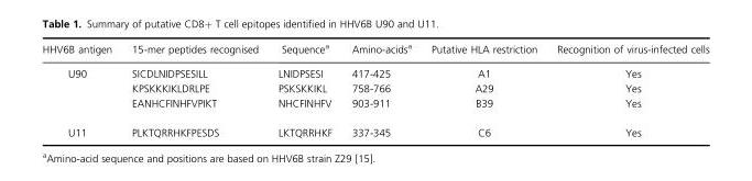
<table><thead><tr><td>HHV6B antigen</td><td>15-mer peptides recognised</td><td>Sequence<sup>a</sup></td><td>Amino-acids<sup>a</sup></td><td>Putative HLA restriction</td><td>Recognition of virus-infected cells</td></tr></thead><tbody><tr><td rowspan="3">U90</td><td>SICDLNIDPSESILL</td><td>LNIDPSESI</td><td>417-425</td><td>A1</td><td>Yes</td></tr><tr><td>KPSKKKIKLDRLPE</td><td>PSKSKKIKL</td><td>758-766</td><td>A29</td><td>Yes</td></tr><tr><td>EANHCFINHFVPIKT</td><td>NHCFINHFV</td><td>903-911</td><td>B39</td><td>Yes</td></tr><tr><td>U11</td><td>PLKTQRRHKFPESDS</td><td>LKTQRRHKF</td><td>337-345</td><td>C6</td><td>Yes</td></tr></tbody></table>